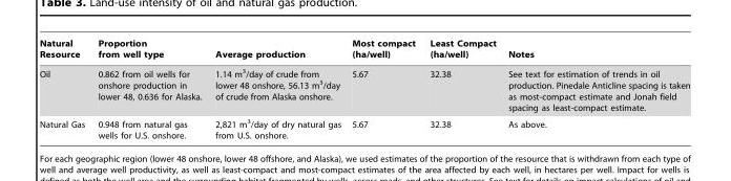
<table><thead><tr><td>Natural Resource</td><td>Proportion from well type</td><td>Average production</td><td>Most compact (ha/well)</td><td>Least Compact (ha/well)</td><td>Notes</td></tr></thead><tbody><tr><td>Oil</td><td>0.862 from oil wells for onshore production in lower 48, 0.636 for Alaska.</td><td>1.14 m<sup>3</sup>/day of crude from lower 48 onshore, 56.13 m<sup>3</sup>/day of crude from Alaska onshore.</td><td>5.67</td><td>32.38</td><td>See text for estimation of trends in oil production. Pinedale Anticline spacing is taken as most-compact estimate and Jonah field spacing as least-compact estimate.</td></tr><tr><td>Natural Gas</td><td>0.948 from natural gas wells for U.S. onshore.</td><td>2,821 m<sup>3</sup>/day of dry natural gas from U.S. onshore.</td><td>5.67</td><td>32.38</td><td>As above.</td></tr></tbody></table>